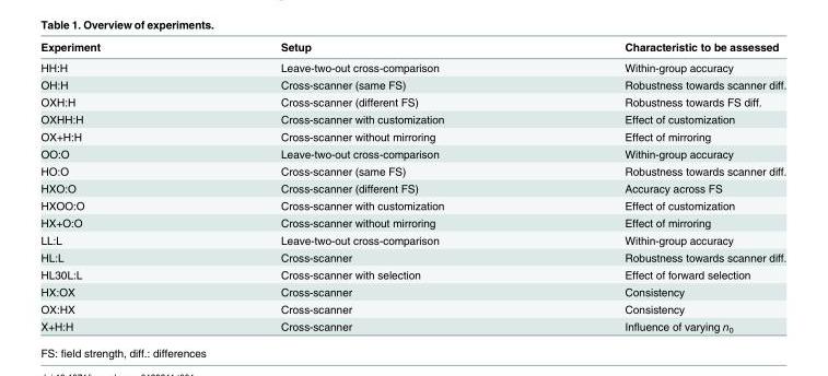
<table><thead><tr><td>Experiment</td><td>Setup</td><td>Characteristic to be assessed</td></tr></thead><tbody><tr><td>HH:H</td><td>Leave-two-out cross-comparison</td><td>Within-group accuracy</td></tr><tr><td>OH:H</td><td>Cross-scanner (same FS)</td><td>Robustness towards scanner diff.</td></tr><tr><td>OXH:H</td><td>Cross-scanner (different FS)</td><td>Robustness towards FS diff.</td></tr><tr><td>OXHH:H</td><td>Cross-scanner with customization</td><td>Effect of customization</td></tr><tr><td>OX+H:H</td><td>Cross-scanner without mirroring</td><td>Effect of mirroring</td></tr><tr><td>OO:O</td><td>Leave-two-out cross-comparison</td><td>Within-group accuracy</td></tr><tr><td>HO:O</td><td>Cross-scanner (same FS)</td><td>Robustness towards scanner diff.</td></tr><tr><td>HXO:O</td><td>Cross-scanner (different FS)</td><td>Accuracy across FS</td></tr><tr><td>HXOO:O</td><td>Cross-scanner with customization</td><td>Effect of customization</td></tr><tr><td>HX+O:O</td><td>Cross-scanner without mirroring</td><td>Effect of mirroring</td></tr><tr><td>LL:L</td><td>Leave-two-out cross-comparison</td><td>Within-group accuracy</td></tr><tr><td>HL:L</td><td>Cross-scanner</td><td>Robustness towards scanner diff.</td></tr><tr><td>HL30L:L</td><td>Cross-scanner with selection</td><td>Effect of forward selection</td></tr><tr><td>HX:OX</td><td>Cross-scanner</td><td>Consistency</td></tr><tr><td>OX:HX</td><td>Cross-scanner</td><td>Consistency</td></tr><tr><td>X+H:H</td><td>Cross-scanner</td><td>Influence of varying n<sub>0</sub></td></tr></tbody></table>